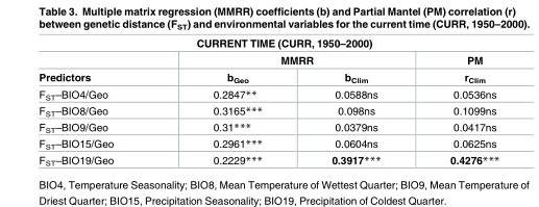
<table><thead><tr><td colspan="4">CURRENT TIME (CURR, 1950–2000)</td></tr><tr><td rowspan="2">Predictors</td><td colspan="2">MMRR</td><td rowspan="2">PM r<sub>Clim</sub></td></tr><tr><td>b<sub>Geo</sub></td><td>b<sub>Clim</sub></td></tr></thead><tbody><tr><td>F<sub>ST</sub>–BIO4/Geo</td><td>0.2847**</td><td>0.0588ns</td><td>0.0536ns</td></tr><tr><td>F<sub>ST</sub>–BIO8/Geo</td><td>0.3165***</td><td>0.098ns</td><td>0.1099ns</td></tr><tr><td>F<sub>ST</sub>–BIO9/Geo</td><td>0.31***</td><td>0.0379ns</td><td>0.0417ns</td></tr><tr><td>F<sub>ST</sub>–BIO15/Geo</td><td>0.2961***</td><td>0.0604ns</td><td>0.0625ns</td></tr><tr><td>F<sub>ST</sub>–BIO19/Geo</td><td>0.2229***</td><td>0.3917***</td><td>0.4276***</td></tr></tbody></table>